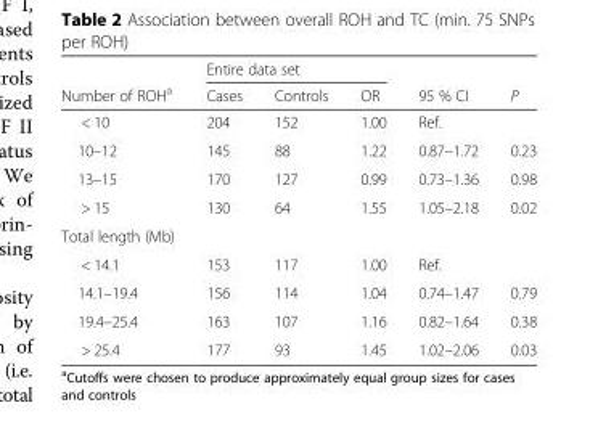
<table><thead><tr><td rowspan="2">Number of ROH<sup>a</sup></td><td colspan="3">Entire data set</td><td rowspan="2">95 % CI</td><td rowspan="2">P</td></tr><tr><td>Cases</td><td>Controls</td><td>OR</td></tr></thead><tbody><tr><td>&lt; 10</td><td>204</td><td>152</td><td>1.00</td><td>Ref.</td><td></td></tr><tr><td>10–12</td><td>145</td><td>88</td><td>1.22</td><td>0.87–1.72</td><td>0.23</td></tr><tr><td>13–15</td><td>170</td><td>127</td><td>0.99</td><td>0.73–1.36</td><td>0.98</td></tr><tr><td>&gt; 15</td><td>130</td><td>64</td><td>1.55</td><td>1.05–2.18</td><td>0.02</td></tr><tr><td colspan="6">Total length (Mb)</td></tr><tr><td>&lt; 14.1</td><td>153</td><td>117</td><td>1.00</td><td>Ref.</td><td></td></tr><tr><td>14.1–19.4</td><td>156</td><td>114</td><td>1.04</td><td>0.74–1.47</td><td>0.79</td></tr><tr><td>19.4–25.4</td><td>163</td><td>107</td><td>1.16</td><td>0.82–1.64</td><td>0.38</td></tr><tr><td>&gt; 25.4</td><td>177</td><td>93</td><td>1.45</td><td>1.02–2.06</td><td>0.03</td></tr></tbody></table>